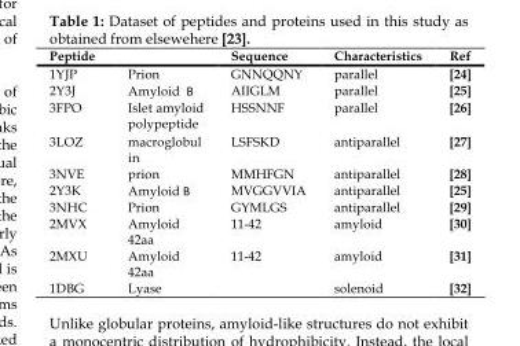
<table><thead><tr><td>Peptide</td><td></td><td>Sequence</td><td>Characteristics</td><td>Ref</td></tr></thead><tbody><tr><td>1YJP</td><td>Prion</td><td>GNNQQNY</td><td>parallel</td><td>[24]</td></tr><tr><td>2Y3J</td><td>Amyloid Β</td><td>AIIGLM</td><td>parallel</td><td>[25]</td></tr><tr><td>3FPO</td><td>Islet amyloid polypeptide</td><td>HSSNNF</td><td>parallel</td><td>[26]</td></tr><tr><td>3LOZ</td><td>macroglobul in</td><td>LSFSKD</td><td>antiparallel</td><td>[27]</td></tr><tr><td>3NVE</td><td>prion</td><td>MMHFGN</td><td>antiparallel</td><td>[28]</td></tr><tr><td>2Y3K</td><td>Amyloid Β</td><td>MVGGVVIA</td><td>antiparallel</td><td>[25]</td></tr><tr><td>3NHC</td><td>Prion</td><td>GYMLGS</td><td>antiparallel</td><td>[29]</td></tr><tr><td>2MVX</td><td>Amyloid 42aa</td><td>11-42</td><td>amyloid</td><td>[30]</td></tr><tr><td>2MXU</td><td>Amyloid 42aa</td><td>11-42</td><td>amyloid</td><td>[31]</td></tr><tr><td>1DBG</td><td>Lyase</td><td></td><td>solenoid</td><td>[32]</td></tr></tbody></table>